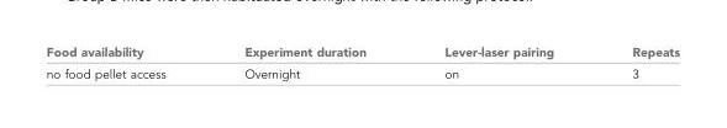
<table><thead><tr><td>Food availability</td><td>Experiment duration</td><td>Lever-laser pairing</td><td>Repeats</td></tr></thead><tbody><tr><td>no food pellet access</td><td>Overnight</td><td>on</td><td>3</td></tr></tbody></table>